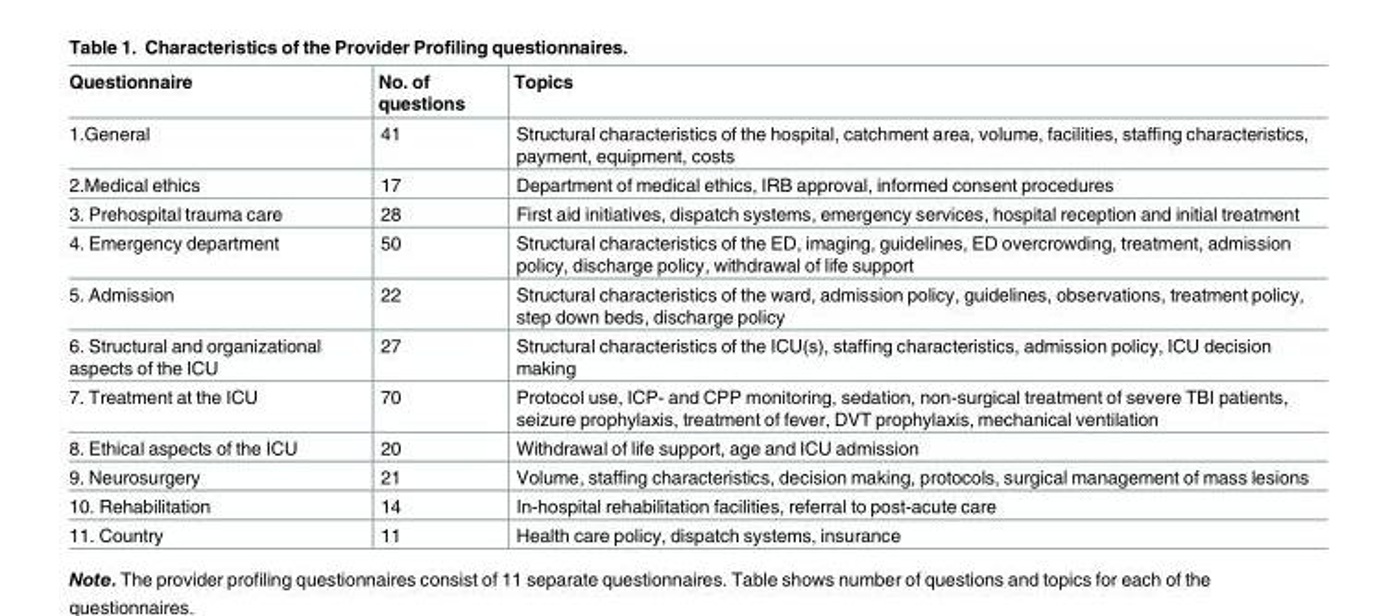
<table><thead><tr><td>Questionnaire</td><td>No. of questions</td><td>Topics</td></tr></thead><tbody><tr><td>1.General</td><td>41</td><td>Structural characteristics of the hospital, catchment area, volume, facilities, staffing characteristics, payment, equipment, costs</td></tr><tr><td>2.Medical ethics</td><td>17</td><td>Department of medical ethics, IRB approval, informed consent procedures</td></tr><tr><td>3. Prehospital trauma care</td><td>28</td><td>First aid initiatives, dispatch systems, emergency services, hospital reception and initial treatment</td></tr><tr><td>4. Emergency department</td><td>50</td><td>Structural characteristics of the ED, imaging, guidelines, ED overcrowding, treatment, admission policy, discharge policy, withdrawal of life support</td></tr><tr><td>5. Admission</td><td>22</td><td>Structural characteristics of the ward, admission policy, guidelines, observations, treatment policy, step down beds, discharge policy</td></tr><tr><td>6. Structural and organizational aspects of the ICU</td><td>27</td><td>Structural characteristics of the ICU(s), staffing characteristics, admission policy, ICU decision making</td></tr><tr><td>7. Treatment at the ICU</td><td>70</td><td>Protocol use, ICP- and CPP monitoring, sedation, non-surgical treatment of severe TBI patients, seizure prophylaxis, treatment of fever, DVT prophylaxis, mechanical ventilation</td></tr><tr><td>8. Ethical aspects of the ICU</td><td>20</td><td>Withdrawal of life support, age and ICU admission</td></tr><tr><td>9. Neurosurgery</td><td>21</td><td>Volume, staffing characteristics, decision making, protocols, surgical management of mass lesions</td></tr><tr><td>10. Rehabilitation</td><td>14</td><td>In-hospital rehabilitation facilities, referral to post-acute care</td></tr><tr><td>11. Country</td><td>11</td><td>Health care policy, dispatch systems, insurance</td></tr></tbody></table>